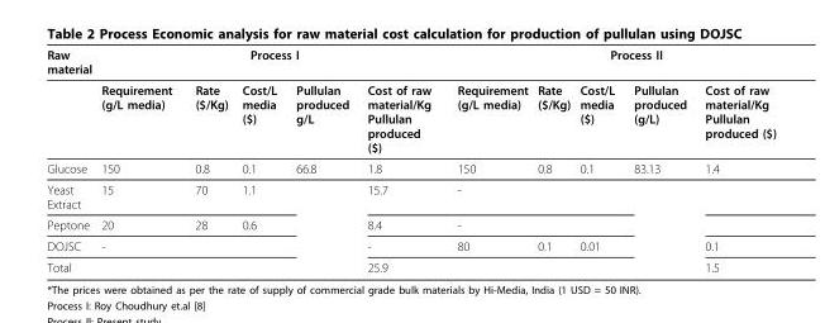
<table><thead><tr><td rowspan="2">Raw material</td><td colspan="5">Process I</td><td colspan="5">Process II</td></tr><tr><td>Requirement (g/L media)</td><td>Rate ($/Kg)</td><td>Cost/L media ($)</td><td>Pullulan produced g/L</td><td>Cost of raw material/Kg Pullulan produced ($)</td><td>Requirement (g/L media)</td><td>Rate ($/Kg)</td><td>Cost/L media ($)</td><td>Pullulan produced (g/L)</td><td>Cost of raw material/Kg Pullulan produced ($)</td></tr></thead><tbody><tr><td>Glucose</td><td>150</td><td>0.8</td><td>0.1</td><td>66.8</td><td>1.8</td><td>150</td><td>0.8</td><td>0.1</td><td>83.13</td><td>1.4</td></tr><tr><td>Yeast Extract</td><td>15</td><td>70</td><td>1.1</td><td></td><td>15.7</td><td>-</td><td></td><td></td><td></td><td></td></tr><tr><td>Peptone</td><td>20</td><td>28</td><td>0.6</td><td></td><td>8.4</td><td>-</td><td></td><td></td><td></td><td></td></tr><tr><td>DOJSC</td><td>-</td><td></td><td></td><td></td><td>-</td><td>80</td><td>0.1</td><td>0.01</td><td></td><td>0.1</td></tr><tr><td>Total</td><td></td><td></td><td></td><td></td><td>25.9</td><td></td><td></td><td></td><td></td><td>1.5</td></tr></tbody></table>